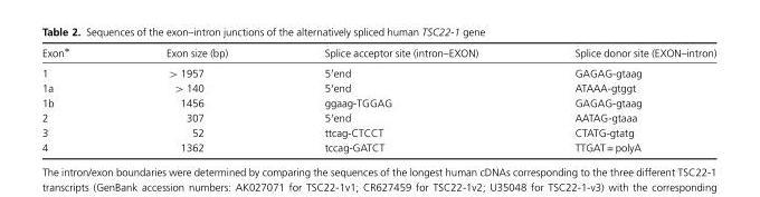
<table><thead><tr><td>Exon*</td><td>Exon size (bp)</td><td>Splice acceptor site (intron–EXON)</td><td>Splice donor site (EXON–intron)</td></tr></thead><tbody><tr><td>1</td><td>&gt; 1957</td><td>5′end</td><td>GAGAG-gtaag</td></tr><tr><td>1a</td><td>&gt; 140</td><td>5′end</td><td>ATAAA-gtggt</td></tr><tr><td>1b</td><td>1456</td><td>ggaag-TGGAG</td><td>GAGAG-gtaag</td></tr><tr><td>2</td><td>307</td><td>5′end</td><td>AATAG-gtaaa</td></tr><tr><td>3</td><td>52</td><td>ttcag-CTCCT</td><td>CTATG-gtatg</td></tr><tr><td>4</td><td>1362</td><td>tccag-GATCT</td><td>TTGAT = polyA</td></tr></tbody></table>